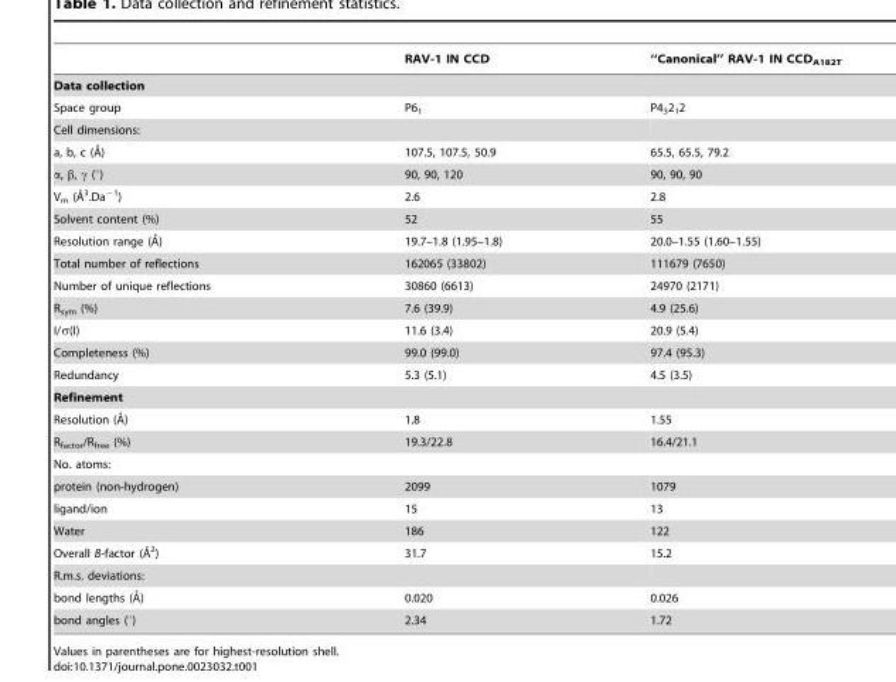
<table><thead><tr><td></td><td>RAV-1 IN CCD</td><td>‘‘Canonical’’ RAV-1 IN CCDA182T</td></tr></thead><tbody><tr><td colspan="3">Data collection</td></tr><tr><td>Space group</td><td>P6<sub>1</sub></td><td>P4<sub>3</sub>2<sub>1</sub>2</td></tr><tr><td colspan="3">Cell dimensions:</td></tr><tr><td>a, b, c (A˚)</td><td>107.5, 107.5, 50.9</td><td>65.5, 65.5, 79.2</td></tr><tr><td>α, β, γ (°)</td><td>90, 90, 120</td><td>90, 90, 90</td></tr><tr><td>Vm (A˚3.Da21)</td><td>2.6</td><td>2.8</td></tr><tr><td>Solvent content (%)</td><td>52</td><td>55</td></tr><tr><td>Resolution range (A˚)</td><td>19.7–1.8 (1.95–1.8)</td><td>20.0–1.55 (1.60–1.55)</td></tr><tr><td>Total number of reflections</td><td>162065 (33802)</td><td>111679 (7650)</td></tr><tr><td>Number of unique reflections</td><td>30860 (6613)</td><td>24970 (2171)</td></tr><tr><td>R<sub>sym</sub> (%)</td><td>7.6 (39.9)</td><td>4.9 (25.6)</td></tr><tr><td>I/σ(I)</td><td>11.6 (3.4)</td><td>20.9 (5.4)</td></tr><tr><td>Completeness (%)</td><td>99.0 (99.0)</td><td>97.4 (95.3)</td></tr><tr><td>Redundancy</td><td>5.3 (5.1)</td><td>4.5 (3.5)</td></tr><tr><td colspan="3">Refinement</td></tr><tr><td>Resolution (A˚)</td><td>1.8</td><td>1.55</td></tr><tr><td>R<sub>factor</sub>/R<sub>free</sub> (%)</td><td>19.3/22.8</td><td>16.4/21.1</td></tr><tr><td colspan="3">No. atoms:</td></tr><tr><td>protein (non-hydrogen)</td><td>2099</td><td>1079</td></tr><tr><td>ligand/ion</td><td>15</td><td>13</td></tr><tr><td>Water</td><td>186</td><td>122</td></tr><tr><td>Overall B-factor (A˚2)</td><td>31.7</td><td>15.2</td></tr><tr><td colspan="3">R.m.s. deviations:</td></tr><tr><td>bond lengths (A˚)</td><td>0.020</td><td>0.026</td></tr><tr><td>bond angles (°)</td><td>2.34</td><td>1.72</td></tr></tbody></table>